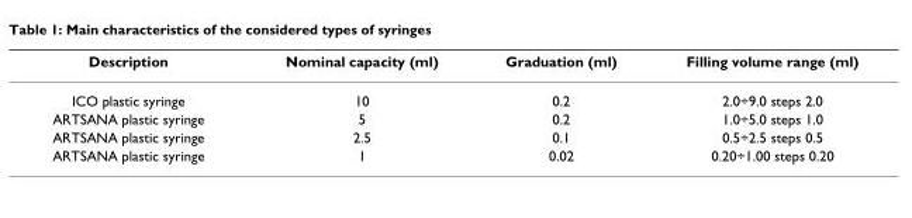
<table><thead><tr><td>Description</td><td>Nominal capacity (ml)</td><td>Graduation (ml)</td><td>Filling volume range (ml)</td></tr></thead><tbody><tr><td>ICO plastic syringe</td><td>10</td><td>0.2</td><td>2.0÷9.0 steps 2.0</td></tr><tr><td>ARTSANA plastic syringe</td><td>5</td><td>0.2</td><td>1.0÷5.0 steps 1.0</td></tr><tr><td>ARTSANA plastic syringe</td><td>2.5</td><td>0.1</td><td>0.5÷2.5 steps 0.5</td></tr><tr><td>ARTSANA plastic syringe</td><td>1</td><td>0.02</td><td>0.20÷1.00 steps 0.20</td></tr></tbody></table>